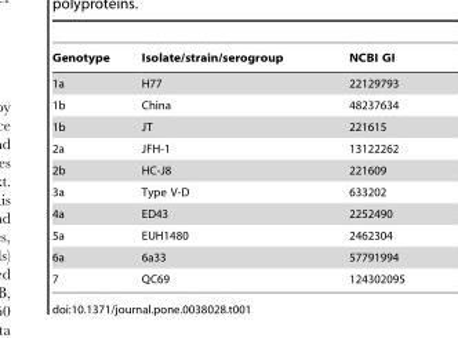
<table><thead><tr><td>Genotype</td><td>Isolate/strain/serogroup</td><td>NCBI GI</td></tr></thead><tbody><tr><td>1a</td><td>H77</td><td>22129793</td></tr><tr><td>1b</td><td>China</td><td>48237634</td></tr><tr><td>1b</td><td>JT</td><td>221615</td></tr><tr><td>2a</td><td>JFH-1</td><td>13122262</td></tr><tr><td>2b</td><td>HC-J8</td><td>221609</td></tr><tr><td>3a</td><td>Type V-D</td><td>633202</td></tr><tr><td>4a</td><td>ED43</td><td>2252490</td></tr><tr><td>5a</td><td>EUH1480</td><td>2462304</td></tr><tr><td>6a</td><td>6a33</td><td>57791994</td></tr><tr><td>7</td><td>QC69</td><td>124302095</td></tr></tbody></table>